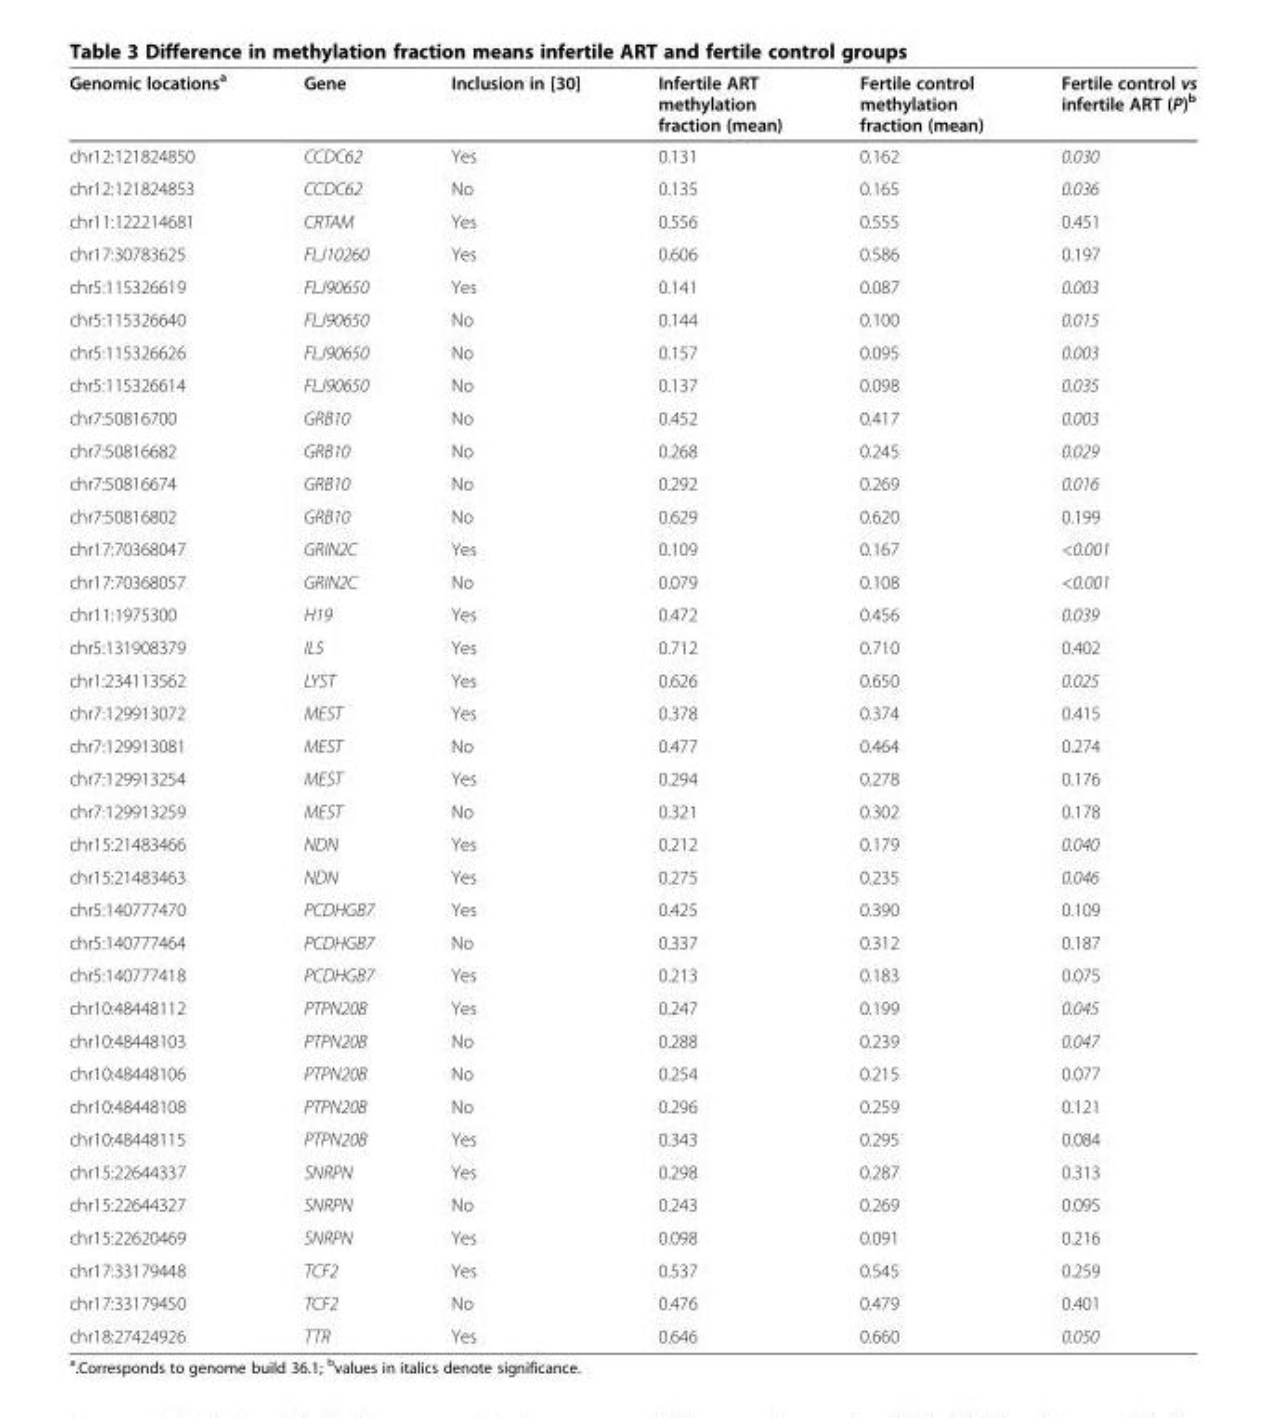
<table><thead><tr><td>Genomic locations<sup>a</sup></td><td>Gene</td><td>Inclusion in [30]</td><td>Infertile ART methylation fraction (mean)</td><td>Fertile control methylation fraction (mean)</td><td>Fertile control vs infertile ART (P)<sup>b</sup></td></tr></thead><tbody><tr><td>chr12:121824850</td><td>CCDC62</td><td>Yes</td><td>0.131</td><td>0.162</td><td>0.030</td></tr><tr><td>chr12:121824853</td><td>CCDC62</td><td>No</td><td>0.135</td><td>0.165</td><td>0.036</td></tr><tr><td>chr11:122214681</td><td>CRTAM</td><td>Yes</td><td>0.556</td><td>0.555</td><td>0.451</td></tr><tr><td>chr17:30783625</td><td>FLJ10260</td><td>Yes</td><td>0.606</td><td>0.586</td><td>0.197</td></tr><tr><td>chr5:115326619</td><td>FLJ90650</td><td>Yes</td><td>0.141</td><td>0.087</td><td>0.003</td></tr><tr><td>chr5:115326640</td><td>FLJ90650</td><td>No</td><td>0.144</td><td>0.100</td><td>0.015</td></tr><tr><td>chr5:115326626</td><td>FLJ90650</td><td>No</td><td>0.157</td><td>0.095</td><td>0.003</td></tr><tr><td>chr5:115326614</td><td>FLJ90650</td><td>No</td><td>0.137</td><td>0.098</td><td>0.035</td></tr><tr><td>chr7:50816700</td><td>GRB10</td><td>No</td><td>0.452</td><td>0.417</td><td>0.003</td></tr><tr><td>chr7:50816682</td><td>GRB10</td><td>No</td><td>0.268</td><td>0.245</td><td>0.029</td></tr><tr><td>chr7:50816674</td><td>GRB10</td><td>No</td><td>0.292</td><td>0.269</td><td>0.016</td></tr><tr><td>chr7:50816802</td><td>GRB10</td><td>No</td><td>0.629</td><td>0.620</td><td>0.199</td></tr><tr><td>chr17:70368047</td><td>GRIN2C</td><td>Yes</td><td>0.109</td><td>0.167</td><td>&lt;0.001</td></tr><tr><td>chr17:70368057</td><td>GRIN2C</td><td>No</td><td>0.079</td><td>0.108</td><td>&lt;0.001</td></tr><tr><td>chr11:1975300</td><td>H19</td><td>Yes</td><td>0.472</td><td>0.456</td><td>0.039</td></tr><tr><td>chr5:131908379</td><td>IL5</td><td>Yes</td><td>0.712</td><td>0.710</td><td>0.402</td></tr><tr><td>chr1:234113562</td><td>LYST</td><td>Yes</td><td>0.626</td><td>0.650</td><td>0.025</td></tr><tr><td>chr7:129913072</td><td>MEST</td><td>Yes</td><td>0.378</td><td>0.374</td><td>0.415</td></tr><tr><td>chr7:129913081</td><td>MEST</td><td>No</td><td>0.477</td><td>0.464</td><td>0.274</td></tr><tr><td>chr7:129913254</td><td>MEST</td><td>Yes</td><td>0.294</td><td>0.278</td><td>0.176</td></tr><tr><td>chr7:129913259</td><td>MEST</td><td>No</td><td>0.321</td><td>0.302</td><td>0.178</td></tr><tr><td>chr15:21483466</td><td>NDN</td><td>Yes</td><td>0.212</td><td>0.179</td><td>0.040</td></tr><tr><td>chr15:21483463</td><td>NDN</td><td>Yes</td><td>0.275</td><td>0.235</td><td>0.046</td></tr><tr><td>chr5:140777470</td><td>PCDHGB7</td><td>Yes</td><td>0.425</td><td>0.390</td><td>0.109</td></tr><tr><td>chr5:140777464</td><td>PCDHGB7</td><td>No</td><td>0.337</td><td>0.312</td><td>0.187</td></tr><tr><td>chr5:140777418</td><td>PCDHGB7</td><td>Yes</td><td>0.213</td><td>0.183</td><td>0.075</td></tr><tr><td>chr10:48448112</td><td>PTPN20B</td><td>Yes</td><td>0.247</td><td>0.199</td><td>0.045</td></tr><tr><td>chr10:48448103</td><td>PTPN20B</td><td>No</td><td>0.288</td><td>0.239</td><td>0.047</td></tr><tr><td>chr10:48448106</td><td>PTPN20B</td><td>No</td><td>0.254</td><td>0.215</td><td>0.077</td></tr><tr><td>chr10:48448108</td><td>PTPN20B</td><td>No</td><td>0.296</td><td>0.259</td><td>0.121</td></tr><tr><td>chr10:48448115</td><td>PTPN20B</td><td>Yes</td><td>0.343</td><td>0.295</td><td>0.084</td></tr><tr><td>chr15:22644337</td><td>SNRPN</td><td>Yes</td><td>0.298</td><td>0.287</td><td>0.313</td></tr><tr><td>chr15:22644327</td><td>SNRPN</td><td>No</td><td>0.243</td><td>0.269</td><td>0.095</td></tr><tr><td>chr15:22620469</td><td>SNRPN</td><td>Yes</td><td>0.098</td><td>0.091</td><td>0.216</td></tr><tr><td>chr17:33179448</td><td>TCF2</td><td>Yes</td><td>0.537</td><td>0.545</td><td>0.259</td></tr><tr><td>chr17:33179450</td><td>TCF2</td><td>No</td><td>0.476</td><td>0.479</td><td>0.401</td></tr><tr><td>chr18:27424926</td><td>TTR</td><td>Yes</td><td>0.646</td><td>0.660</td><td>0.050</td></tr></tbody></table>